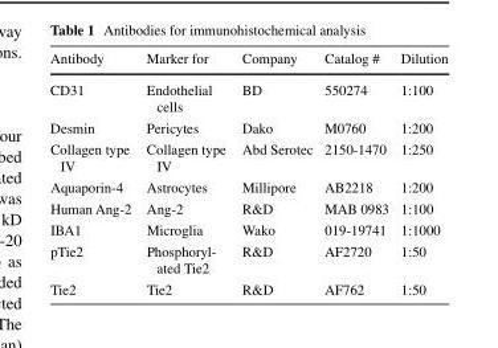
<table><thead><tr><td>Antibody</td><td>Marker for</td><td>Company</td><td>Catalog #</td><td>Dilution</td></tr></thead><tbody><tr><td>CD31</td><td>Endothelial cells</td><td>BD</td><td>550274</td><td>1:100</td></tr><tr><td>Desmin</td><td>Pericytes</td><td>Dako</td><td>M0760</td><td>1:200</td></tr><tr><td>Collagen type IV</td><td>Collagen type IV</td><td>Abd Serotec</td><td>2150-1470</td><td>1:250</td></tr><tr><td>Aquaporin-4</td><td>Astrocytes</td><td>Millipore</td><td>AB2218</td><td>1:200</td></tr><tr><td>Human Ang-2</td><td>Ang-2</td><td>R&amp;D</td><td>MAB 0983</td><td>1:100</td></tr><tr><td>IBA1</td><td>Microglia</td><td>Wako</td><td>019-19741</td><td>1:1000</td></tr><tr><td>pTie2</td><td>Phosphoryl- ated Tie2</td><td>R&amp;D</td><td>AF2720</td><td>1:50</td></tr><tr><td>Tie2</td><td>Tie2</td><td>R&amp;D</td><td>AF762</td><td>1:50</td></tr></tbody></table>